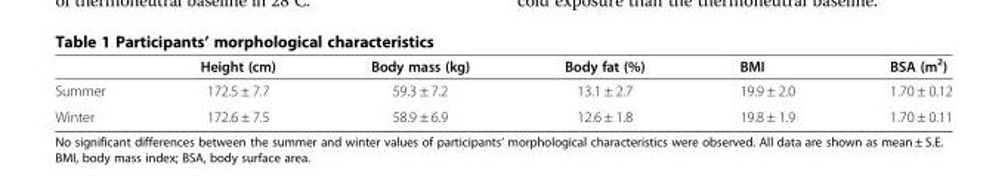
<table><thead><tr><td></td><td>Height (cm)</td><td>Body mass (kg)</td><td>Body fat (%)</td><td>BMI</td><td>BSA (m<sup>2</sup>)</td></tr></thead><tbody><tr><td>Summer</td><td>172.5 ± 7.7</td><td>59.3 ± 7.2</td><td>13.1 ± 2.7</td><td>19.9 ± 2.0</td><td>1.70 ± 0.12</td></tr><tr><td>Winter</td><td>172.6 ± 7.5</td><td>58.9 ± 6.9</td><td>12.6 ± 1.8</td><td>19.8 ± 1.9</td><td>1.70 ± 0.11</td></tr></tbody></table>